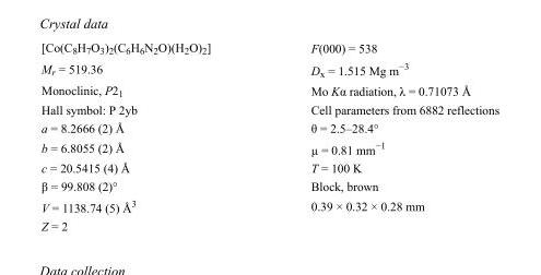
<table><tbody><tr><td>[Co(C<sub>8</sub>H<sub>7</sub>O<sub>3</sub>)<sub>2</sub>(C<sub>6</sub>H<sub>6</sub>N<sub>2</sub>O)(H<sub>2</sub>O)<sub>2</sub>]</td><td>F(000) = 538</td></tr><tr><td>M<sub>r</sub> = 519.36</td><td>D<sub>x</sub> = 1.515 Mg m<sup>−3</sup></td></tr><tr><td>Monoclinic, P2<sub>1</sub></td><td>Mo Kα radiation, λ = 0.71073 Å</td></tr><tr><td>Hall symbol: P 2yb</td><td>Cell parameters from 6882 reflections</td></tr><tr><td>a = 8.2666 (2) Å</td><td>θ = 2.5–28.4°</td></tr><tr><td>b = 6.8055 (2) Å</td><td>µ = 0.81 mm<sup>−1</sup></td></tr><tr><td>c = 20.5415 (4) Å</td><td>T = 100 K</td></tr><tr><td>β = 99.808 (2)°</td><td>Block, brown</td></tr><tr><td>V = 1138.74 (5) Å<sup>3</sup></td><td>0.39 × 0.32 × 0.28 mm</td></tr><tr><td>Z = 2</td><td></td></tr></tbody></table>